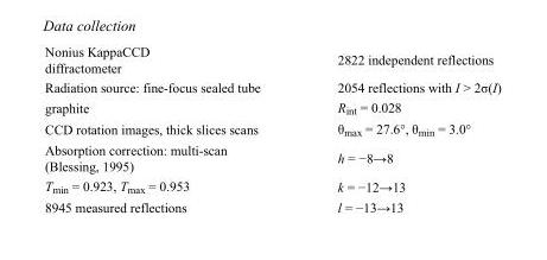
<table><tbody><tr><td>Nonius KappaCCD diffractometer</td><td>2822 independent reflections</td></tr><tr><td>Radiation source: fine-focus sealed tube</td><td>2054 reflections with I &gt; 2σ(I)</td></tr><tr><td>graphite</td><td>R<sub>int</sub> = 0.028</td></tr><tr><td>CCD rotation images, thick slices scans</td><td>θ<sub>max</sub> = 27.6°, θ<sub>min</sub> = 3.0°</td></tr><tr><td>Absorption correction: multi-scan (Blessing, 1995)</td><td>h = −8→8</td></tr><tr><td>T<sub>min</sub> = 0.923, T<sub>max</sub> = 0.953</td><td>k = −12→13</td></tr><tr><td>8945 measured reflections</td><td>l = −13→13</td></tr></tbody></table>